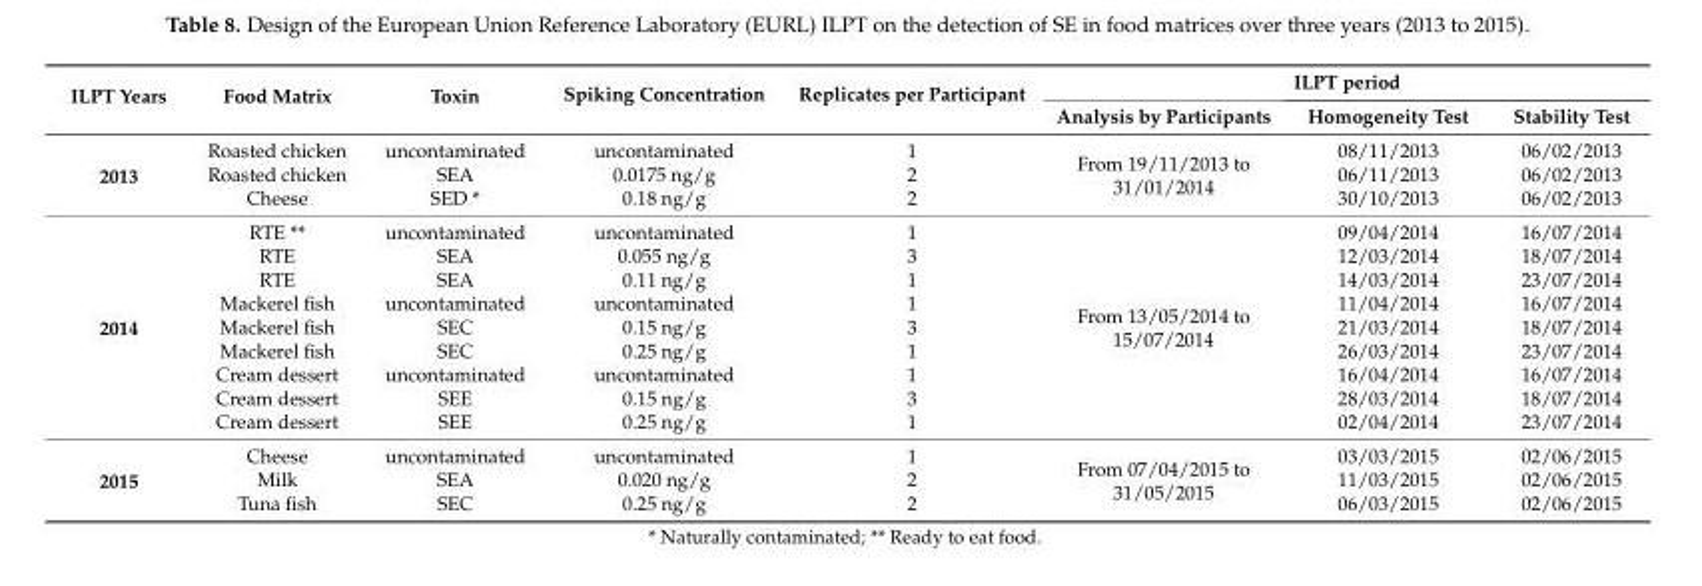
<table><thead><tr><td rowspan="2">ILPT Years</td><td rowspan="2">Food Matrix</td><td rowspan="2">Toxin</td><td rowspan="2">Spiking Concentration</td><td rowspan="2">Replicates per Participant</td><td colspan="3">ILPT period</td></tr><tr><td>Analysis by Participants</td><td>Homogeneity Test</td><td>Stability Test</td></tr></thead><tbody><tr><td rowspan="3">2013</td><td>Roasted chicken</td><td>uncontaminated</td><td>uncontaminated</td><td>1</td><td rowspan="3">From 19/11/2013 to 31/01/2014</td><td>08/11/2013</td><td>06/02/2013</td></tr><tr><td>Roasted chicken</td><td>SEA</td><td>0.0175 ng/g</td><td>2</td><td>06/11/2013</td><td>06/02/2013</td></tr><tr><td>Cheese</td><td>SED *</td><td>0.18 ng/g</td><td>2</td><td>30/10/2013</td><td>06/02/2013</td></tr><tr><td rowspan="9">2014</td><td>RTE **</td><td>uncontaminated</td><td>uncontaminated</td><td>1</td><td rowspan="9">From 13/05/2014 to 15/07/2014</td><td>09/04/2014</td><td>16/07/2014</td></tr><tr><td>RTE</td><td>SEA</td><td>0.055 ng/g</td><td>3</td><td>12/03/2014</td><td>18/07/2014</td></tr><tr><td>RTE</td><td>SEA</td><td>0.11 ng/g</td><td>1</td><td>14/03/2014</td><td>23/07/2014</td></tr><tr><td>Mackerel fish</td><td>uncontaminated</td><td>uncontaminated</td><td>1</td><td>11/04/2014</td><td>16/07/2014</td></tr><tr><td>Mackerel fish</td><td>SEC</td><td>0.15 ng/g</td><td>3</td><td>21/03/2014</td><td>18/07/2014</td></tr><tr><td>Mackerel fish</td><td>SEC</td><td>0.25 ng/g</td><td>1</td><td>26/03/2014</td><td>23/07/2014</td></tr><tr><td>Cream dessert</td><td>uncontaminated</td><td>uncontaminated</td><td>1</td><td>16/04/2014</td><td>16/07/2014</td></tr><tr><td>Cream dessert</td><td>SEE</td><td>0.15 ng/g</td><td>3</td><td>28/03/2014</td><td>18/07/2014</td></tr><tr><td>Cream dessert</td><td>SEE</td><td>0.25 ng/g</td><td>1</td><td>02/04/2014</td><td>23/07/2014</td></tr><tr><td rowspan="3">2015</td><td>Cheese</td><td>uncontaminated</td><td>uncontaminated</td><td>1</td><td rowspan="3">From 07/04/2015 to 31/05/2015</td><td>03/03/2015</td><td>02/06/2015</td></tr><tr><td>Milk</td><td>SEA</td><td>0.020 ng/g</td><td>2</td><td>11/03/2015</td><td>02/06/2015</td></tr><tr><td>Tuna fish</td><td>SEC</td><td>0.25 ng/g</td><td>2</td><td>06/03/2015</td><td>02/06/2015</td></tr></tbody></table>